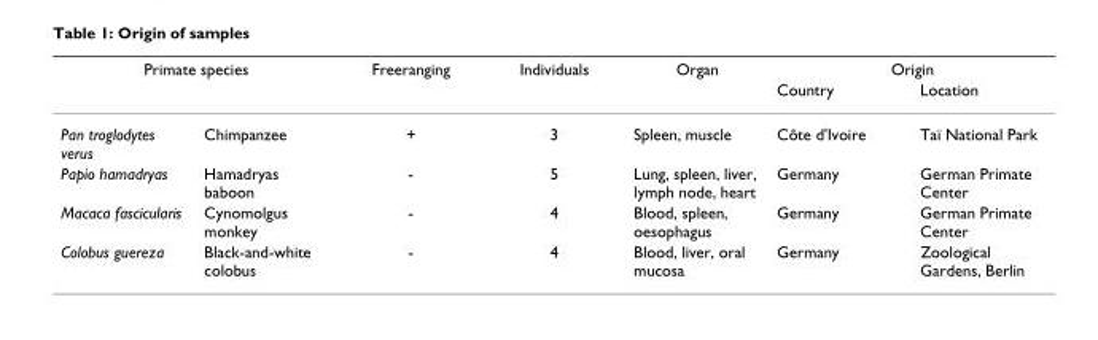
<table><thead><tr><td colspan="2">Primate species</td><td rowspan="2">Freeranging</td><td rowspan="2">Individuals</td><td rowspan="2">Organ</td><td colspan="2">Origin</td></tr><tr><td></td><td></td><td>Country</td><td>Location</td></tr></thead><tbody><tr><td>Pan troglodytes verus</td><td>Chimpanzee</td><td>+</td><td>3</td><td>Spleen, muscle</td><td>Côte d&#x27;Ivoire</td><td>Taï National Park</td></tr><tr><td>Papio hamadryas</td><td>Hamadryas baboon</td><td>-</td><td>5</td><td>Lung, spleen, liver, lymph node, heart</td><td>Germany</td><td>German Primate Center</td></tr><tr><td>Macaca fascicularis</td><td>Cynomolgus monkey</td><td>-</td><td>4</td><td>Blood, spleen, oesophagus</td><td>Germany</td><td>German Primate Center</td></tr><tr><td>Colobus guereza</td><td>Black-and-white colobus</td><td>-</td><td>4</td><td>Blood, liver, oral mucosa</td><td>Germany</td><td>Zoological Gardens, Berlin</td></tr></tbody></table>